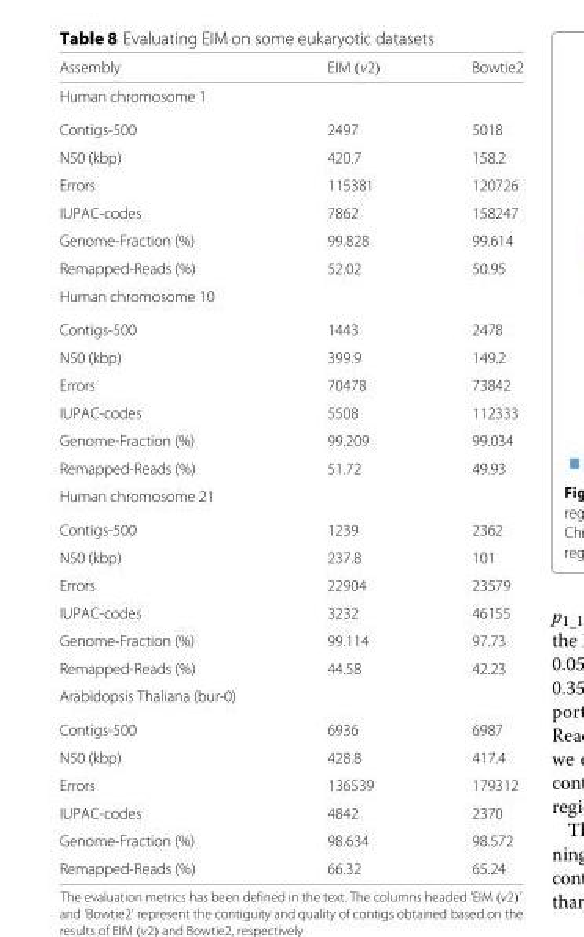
<table><thead><tr><td>Assembly</td><td>EIM (v2)</td><td>Bowtie2</td></tr></thead><tbody><tr><td colspan="3">Human chromosome 1</td></tr><tr><td>Contigs-500</td><td>2497</td><td>5018</td></tr><tr><td>N50 (kbp)</td><td>420.7</td><td>158.2</td></tr><tr><td>Errors</td><td>115381</td><td>120726</td></tr><tr><td>IUPAC-codes</td><td>7862</td><td>158247</td></tr><tr><td>Genome-Fraction (%)</td><td>99.828</td><td>99.614</td></tr><tr><td>Remapped-Reads (%)</td><td>52.02</td><td>50.95</td></tr><tr><td colspan="3">Human chromosome 10</td></tr><tr><td>Contigs-500</td><td>1443</td><td>2478</td></tr><tr><td>N50 (kbp)</td><td>399.9</td><td>149.2</td></tr><tr><td>Errors</td><td>70478</td><td>73842</td></tr><tr><td>IUPAC-codes</td><td>5508</td><td>112333</td></tr><tr><td>Genome-Fraction (%)</td><td>99.209</td><td>99.034</td></tr><tr><td>Remapped-Reads (%)</td><td>51.72</td><td>49.93</td></tr><tr><td colspan="3">Human chromosome 21</td></tr><tr><td>Contigs-500</td><td>1239</td><td>2362</td></tr><tr><td>N50 (kbp)</td><td>237.8</td><td>101</td></tr><tr><td>Errors</td><td>22904</td><td>23579</td></tr><tr><td>IUPAC-codes</td><td>3232</td><td>46155</td></tr><tr><td>Genome-Fraction (%)</td><td>99.114</td><td>97.73</td></tr><tr><td>Remapped-Reads (%)</td><td>44.58</td><td>42.23</td></tr><tr><td colspan="3">Arabidopsis Thaliana (bur-0)</td></tr><tr><td>Contigs-500</td><td>6936</td><td>6987</td></tr><tr><td>N50 (kbp)</td><td>428.8</td><td>417.4</td></tr><tr><td>Errors</td><td>136539</td><td>179312</td></tr><tr><td>IUPAC-codes</td><td>4842</td><td>2370</td></tr><tr><td>Genome-Fraction (%)</td><td>98.634</td><td>98.572</td></tr><tr><td>Remapped-Reads (%)</td><td>66.32</td><td>65.24</td></tr></tbody></table>